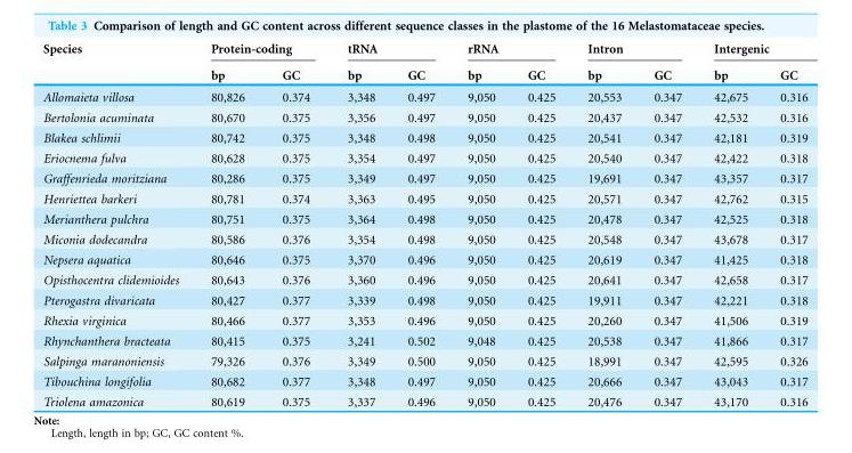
<table><thead><tr><td rowspan="2">Species</td><td colspan="2">Protein-coding</td><td colspan="2">tRNA</td><td colspan="2">rRNA</td><td colspan="2">Intron</td><td colspan="2">Intergenic</td></tr><tr><td>bp</td><td>GC</td><td>bp</td><td>GC</td><td>bp</td><td>GC</td><td>bp</td><td>GC</td><td>bp</td><td>GC</td></tr></thead><tbody><tr><td>Allomaieta villosa</td><td>80,826</td><td>0.374</td><td>3,348</td><td>0.497</td><td>9,050</td><td>0.425</td><td>20,553</td><td>0.347</td><td>42,675</td><td>0.316</td></tr><tr><td>Bertolonia acuminata</td><td>80,670</td><td>0.375</td><td>3,356</td><td>0.497</td><td>9,050</td><td>0.425</td><td>20,437</td><td>0.347</td><td>42,532</td><td>0.316</td></tr><tr><td>Blakea schlimii</td><td>80,742</td><td>0.375</td><td>3,348</td><td>0.498</td><td>9,050</td><td>0.425</td><td>20,541</td><td>0.347</td><td>42,181</td><td>0.319</td></tr><tr><td>Eriocnema fulva</td><td>80,628</td><td>0.375</td><td>3,354</td><td>0.497</td><td>9,050</td><td>0.425</td><td>20,540</td><td>0.347</td><td>42,422</td><td>0.318</td></tr><tr><td>Graffenrieda moritziana</td><td>80,286</td><td>0.375</td><td>3,349</td><td>0.497</td><td>9,050</td><td>0.425</td><td>19,691</td><td>0.347</td><td>43,357</td><td>0.317</td></tr><tr><td>Henriettea barkeri</td><td>80,781</td><td>0.374</td><td>3,363</td><td>0.495</td><td>9,050</td><td>0.425</td><td>20,571</td><td>0.347</td><td>42,762</td><td>0.315</td></tr><tr><td>Merianthera pulchra</td><td>80,751</td><td>0.375</td><td>3,364</td><td>0.498</td><td>9,050</td><td>0.425</td><td>20,478</td><td>0.347</td><td>42,525</td><td>0.318</td></tr><tr><td>Miconia dodecandra</td><td>80,586</td><td>0.376</td><td>3,354</td><td>0.498</td><td>9,050</td><td>0.425</td><td>20,548</td><td>0.347</td><td>43,678</td><td>0.317</td></tr><tr><td>Nepsera aquatica</td><td>80,646</td><td>0.375</td><td>3,370</td><td>0.496</td><td>9,050</td><td>0.425</td><td>20,619</td><td>0.347</td><td>41,425</td><td>0.318</td></tr><tr><td>Opisthocentra clidemioides</td><td>80,643</td><td>0.376</td><td>3,360</td><td>0.496</td><td>9,050</td><td>0.425</td><td>20,641</td><td>0.347</td><td>42,658</td><td>0.317</td></tr><tr><td>Pterogastra divaricata</td><td>80,427</td><td>0.377</td><td>3,339</td><td>0.498</td><td>9,050</td><td>0.425</td><td>19,911</td><td>0.347</td><td>42,221</td><td>0.318</td></tr><tr><td>Rhexia virginica</td><td>80,466</td><td>0.377</td><td>3,353</td><td>0.496</td><td>9,050</td><td>0.425</td><td>20,260</td><td>0.347</td><td>41,506</td><td>0.319</td></tr><tr><td>Rhynchanthera bracteata</td><td>80,415</td><td>0.375</td><td>3,241</td><td>0.502</td><td>9,048</td><td>0.425</td><td>20,538</td><td>0.347</td><td>41,866</td><td>0.317</td></tr><tr><td>Salpinga maranoniensis</td><td>79,326</td><td>0.376</td><td>3,349</td><td>0.500</td><td>9,050</td><td>0.425</td><td>18,991</td><td>0.347</td><td>42,595</td><td>0.326</td></tr><tr><td>Tibouchina longifolia</td><td>80,682</td><td>0.377</td><td>3,348</td><td>0.497</td><td>9,050</td><td>0.425</td><td>20,666</td><td>0.347</td><td>43,043</td><td>0.317</td></tr><tr><td>Triolena amazonica</td><td>80,619</td><td>0.375</td><td>3,337</td><td>0.496</td><td>9,050</td><td>0.425</td><td>20,476</td><td>0.347</td><td>43,170</td><td>0.316</td></tr></tbody></table>